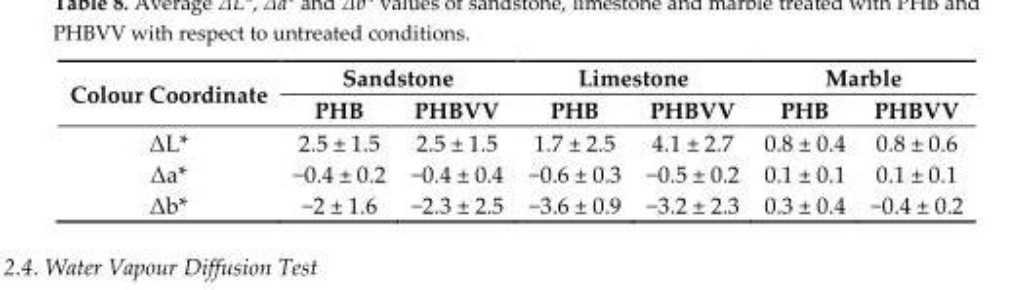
<table><thead><tr><td rowspan="2">Colour Coordinate</td><td colspan="2">Sandstone</td><td colspan="2">Limestone</td><td colspan="2">Marble</td></tr><tr><td>PHB</td><td>PHBVV</td><td>PHB</td><td>PHBVV</td><td>PHB</td><td>PHBVV</td></tr></thead><tbody><tr><td>ΔL*</td><td>2.5 ± 1.5</td><td>2.5 ± 1.5</td><td>1.7 ± 2.5</td><td>4.1 ± 2.7</td><td>0.8 ± 0.4</td><td>0.8 ± 0.6</td></tr><tr><td>Δa*</td><td>−0.4 ± 0.2</td><td>−0.4 ± 0.4</td><td>−0.6 ± 0.3</td><td>−0.5 ± 0.2</td><td>0.1 ± 0.1</td><td>0.1 ± 0.1</td></tr><tr><td>Δb*</td><td>−2 ± 1.6</td><td>−2.3 ± 2.5</td><td>−3.6 ± 0.9</td><td>−3.2 ± 2.3</td><td>0.3 ± 0.4</td><td>−0.4 ± 0.2</td></tr></tbody></table>